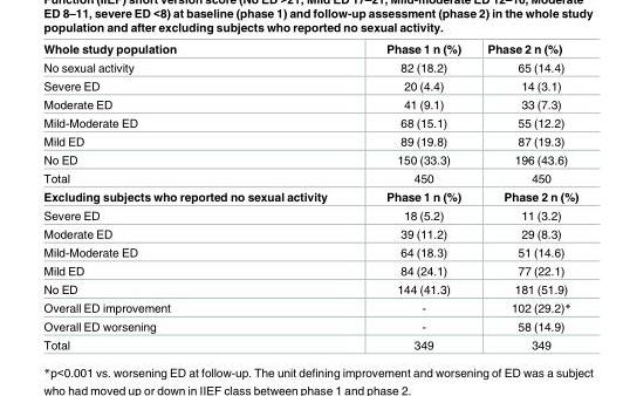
<table><tbody><tr><td>Whole study population</td><td>Phase 1 n (%)</td><td>Phase 2 n (%)</td></tr><tr><td>No sexual activity</td><td>82 (18.2)</td><td>65 (14.4)</td></tr><tr><td>Severe ED</td><td>20 (4.4)</td><td>14 (3.1)</td></tr><tr><td>Moderate ED</td><td>41 (9.1)</td><td>33 (7.3)</td></tr><tr><td>Mild-Moderate ED</td><td>68 (15.1)</td><td>55 (12.2)</td></tr><tr><td>Mild ED</td><td>89 (19.8)</td><td>87 (19.3)</td></tr><tr><td>No ED</td><td>150 (33.3)</td><td>196 (43.6)</td></tr><tr><td>Total</td><td>450</td><td>450</td></tr><tr><td>Excluding subjects who reported no sexual activity</td><td>Phase 1 n (%)</td><td>Phase 2 n (%)</td></tr><tr><td>Severe ED</td><td>18 (5.2)</td><td>11 (3.2)</td></tr><tr><td>Moderate ED</td><td>39 (11.2)</td><td>29 (8.3)</td></tr><tr><td>Mild-Moderate ED</td><td>64 (18.3)</td><td>51 (14.6)</td></tr><tr><td>Mild ED</td><td>84 (24.1)</td><td>77 (22.1)</td></tr><tr><td>No ED</td><td>144 (41.3)</td><td>181 (51.9)</td></tr><tr><td>Overall ED improvement</td><td>-</td><td>102 (29.2)*</td></tr><tr><td>Overall ED worsening</td><td>-</td><td>58 (14.9)</td></tr><tr><td>Total</td><td>349</td><td>349</td></tr></tbody></table>